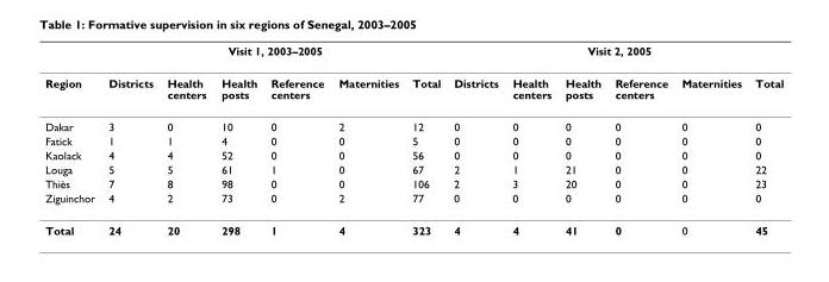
<table><thead><tr><td rowspan="2">Region</td><td colspan="6">Visit 1, 2003–2005</td><td colspan="6">Visit 2, 2005</td></tr><tr><td>Districts</td><td>Health centers</td><td>Health posts</td><td>Reference centers</td><td>Maternities</td><td>Total</td><td>Districts</td><td>Health centers</td><td>Health posts</td><td>Reference centers</td><td>Maternities</td><td>Total</td></tr></thead><tbody><tr><td>Dakar</td><td>3</td><td>0</td><td>10</td><td>0</td><td>2</td><td>12</td><td>0</td><td>0</td><td>0</td><td>0</td><td>0</td><td>0</td></tr><tr><td>Fatick</td><td>1</td><td>1</td><td>4</td><td>0</td><td>0</td><td>5</td><td>0</td><td>0</td><td>0</td><td>0</td><td>0</td><td>0</td></tr><tr><td>Kaolack</td><td>4</td><td>4</td><td>52</td><td>0</td><td>0</td><td>56</td><td>0</td><td>0</td><td>0</td><td>0</td><td>0</td><td>0</td></tr><tr><td>Louga</td><td>5</td><td>5</td><td>61</td><td>1</td><td>0</td><td>67</td><td>2</td><td>1</td><td>21</td><td>0</td><td>0</td><td>22</td></tr><tr><td>Thiès</td><td>7</td><td>8</td><td>98</td><td>0</td><td>0</td><td>106</td><td>2</td><td>3</td><td>20</td><td>0</td><td>0</td><td>23</td></tr><tr><td>Ziguinchor</td><td>4</td><td>2</td><td>73</td><td>0</td><td>2</td><td>77</td><td>0</td><td>0</td><td>0</td><td>0</td><td>0</td><td>0</td></tr><tr><td>Total</td><td>24</td><td>20</td><td>298</td><td>1</td><td>4</td><td>323</td><td>4</td><td>4</td><td>41</td><td>0</td><td>0</td><td>45</td></tr></tbody></table>